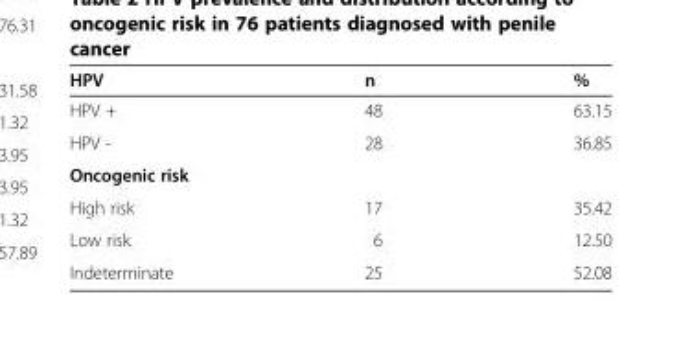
<table><thead><tr><td>HPV</td><td>n</td><td>%</td></tr></thead><tbody><tr><td>HPV +</td><td>48</td><td>63.15</td></tr><tr><td>HPV -</td><td>28</td><td>36.85</td></tr><tr><td colspan="3">Oncogenic risk</td></tr><tr><td>High risk</td><td>17</td><td>35.42</td></tr><tr><td>Low risk</td><td>6</td><td>12.50</td></tr><tr><td>Indeterminate</td><td>25</td><td>52.08</td></tr></tbody></table>